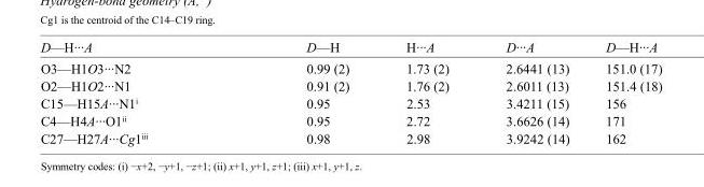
<table><tbody><tr><td>D—H···A</td><td>D—H</td><td>H···A</td><td>D···A</td><td>D—H···A</td></tr><tr><td>O3—H1O3···N2</td><td>0.99 (2)</td><td>1.73 (2)</td><td>2.6441 (13)</td><td>151.0 (17)</td></tr><tr><td>O2—H1O2···N1</td><td>0.91 (2)</td><td>1.76 (2)</td><td>2.6011 (13)</td><td>151.4 (18)</td></tr><tr><td>C15—H15A···N1<sup>i</sup></td><td>0.95</td><td>2.53</td><td>3.4211 (15)</td><td>156</td></tr><tr><td>C4—H4A···O1<sup>ii</sup></td><td>0.95</td><td>2.72</td><td>3.6626 (14)</td><td>171</td></tr><tr><td>C27—H27A···Cg1<sup>iii</sup></td><td>0.98</td><td>2.98</td><td>3.9242 (14)</td><td>162</td></tr></tbody></table>